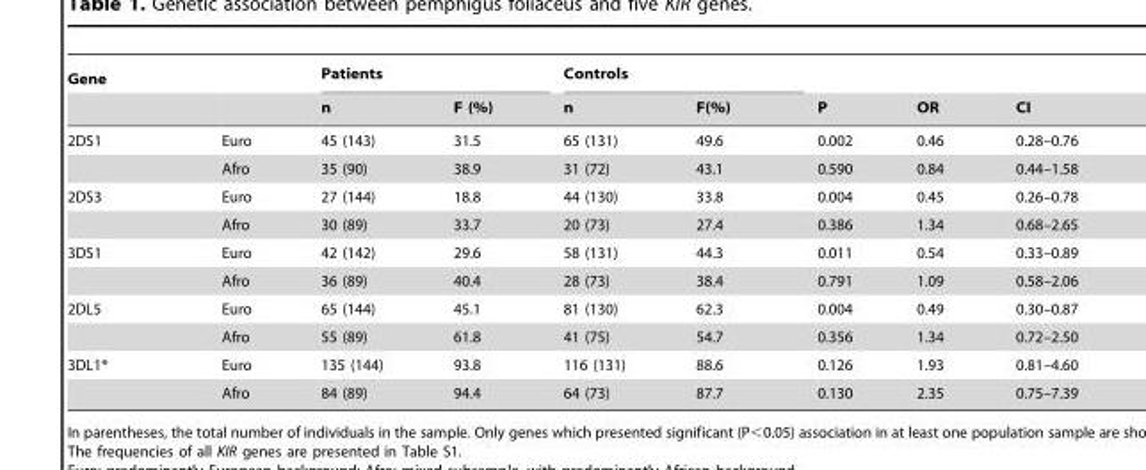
<table><thead><tr><td rowspan="2">Gene</td><td rowspan="2"></td><td colspan="2">Patients</td><td colspan="2">Controls</td><td rowspan="2">P</td><td rowspan="2">OR</td><td rowspan="2">CI</td></tr><tr><td>n</td><td>F (%)</td><td>n</td><td>F(%)</td></tr></thead><tbody><tr><td rowspan="2">2DS1</td><td>Euro</td><td>45 (143)</td><td>31.5</td><td>65 (131)</td><td>49.6</td><td>0.002</td><td>0.46</td><td>0.28–0.76</td></tr><tr><td>Afro</td><td>35 (90)</td><td>38.9</td><td>31 (72)</td><td>43.1</td><td>0.590</td><td>0.84</td><td>0.44–1.58</td></tr><tr><td rowspan="2">2DS3</td><td>Euro</td><td>27 (144)</td><td>18.8</td><td>44 (130)</td><td>33.8</td><td>0.004</td><td>0.45</td><td>0.26–0.78</td></tr><tr><td>Afro</td><td>30 (89)</td><td>33.7</td><td>20 (73)</td><td>27.4</td><td>0.386</td><td>1.34</td><td>0.68–2.65</td></tr><tr><td rowspan="2">3DS1</td><td>Euro</td><td>42 (142)</td><td>29.6</td><td>58 (131)</td><td>44.3</td><td>0.011</td><td>0.54</td><td>0.33–0.89</td></tr><tr><td>Afro</td><td>36 (89)</td><td>40.4</td><td>28 (73)</td><td>38.4</td><td>0.791</td><td>1.09</td><td>0.58–2.06</td></tr><tr><td rowspan="2">2DL5</td><td>Euro</td><td>65 (144)</td><td>45.1</td><td>81 (130)</td><td>62.3</td><td>0.004</td><td>0.49</td><td>0.30–0.87</td></tr><tr><td>Afro</td><td>55 (89)</td><td>61.8</td><td>41 (75)</td><td>54.7</td><td>0.356</td><td>1.34</td><td>0.72–2.50</td></tr><tr><td rowspan="2">3DL1*</td><td>Euro</td><td>135 (144)</td><td>93.8</td><td>116 (131)</td><td>88.6</td><td>0.126</td><td>1.93</td><td>0.81–4.60</td></tr><tr><td>Afro</td><td>84 (89)</td><td>94.4</td><td>64 (73)</td><td>87.7</td><td>0.130</td><td>2.35</td><td>0.75–7.39</td></tr></tbody></table>